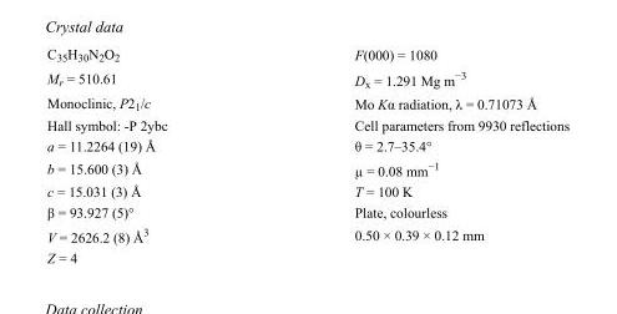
<table><tbody><tr><td>C<sub>35</sub>H<sub>30</sub>N<sub>2</sub>O<sub>2</sub></td><td>F(000) = 1080</td></tr><tr><td>M<sub>r</sub> = 510.61</td><td>D<sub>x</sub> = 1.291 Mg m<sup>−3</sup></td></tr><tr><td>Monoclinic, P2<sub>1</sub>/c</td><td>Mo Kα radiation, λ = 0.71073 Å</td></tr><tr><td>Hall symbol: -P 2ybc</td><td>Cell parameters from 9930 reflections</td></tr><tr><td>a = 11.2264 (19) Å</td><td>θ = 2.7–35.4°</td></tr><tr><td>b = 15.600 (3) Å</td><td>µ = 0.08 mm<sup>−1</sup></td></tr><tr><td>c = 15.031 (3) Å</td><td>T = 100 K</td></tr><tr><td>β = 93.927 (5)°</td><td>Plate, colourless</td></tr><tr><td>V = 2626.2 (8) Å<sup>3</sup></td><td>0.50 × 0.39 × 0.12 mm</td></tr><tr><td>Z = 4</td><td></td></tr></tbody></table>